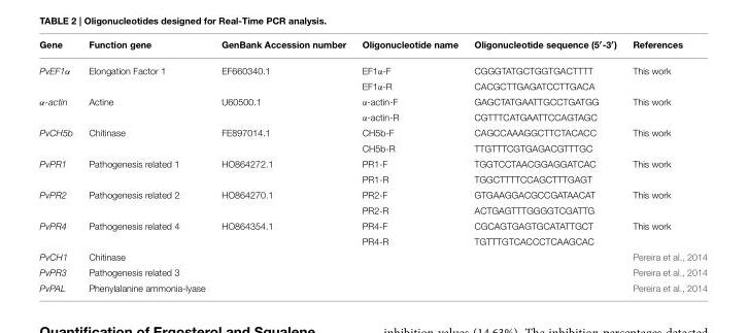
<table><thead><tr><td>Gene</td><td>Function gene</td><td>GenBank Accession number</td><td>Oligonucleotide name</td><td>Oligonucleotide sequence (5′-3′)</td><td>References</td></tr></thead><tbody><tr><td rowspan="2">PvEF1α</td><td>Elongation Factor 1</td><td>EF660340.1</td><td>EF1α-F</td><td>CGGGTATGCTGGTGACTTTT</td><td>This work</td></tr><tr><td></td><td></td><td>EF1α-R</td><td>CACGCTTGAGATCCTTGACA</td><td></td></tr><tr><td rowspan="2">α-actin</td><td>Actine</td><td>U60500.1</td><td>α-actin-F</td><td>GAGCTATGAATTGCCTGATGG</td><td>This work</td></tr><tr><td></td><td></td><td>α-actin-R</td><td>CGTTTCATGAATTCCAGTAGC</td><td></td></tr><tr><td rowspan="2">PvCH5b</td><td>Chitinase</td><td>FE897014.1</td><td>CH5b-F</td><td>CAGCCAAAGGCTTCTACACC</td><td>This work</td></tr><tr><td></td><td></td><td>CH5b-R</td><td>TTGTTTCGTGAGACGTTTGC</td><td></td></tr><tr><td rowspan="2">PvPR1</td><td>Pathogenesis related 1</td><td>HO864272.1</td><td>PR1-F</td><td>TGGTCCTAACGGAGGATCAC</td><td>This work</td></tr><tr><td></td><td></td><td>PR1-R</td><td>TGGCTTTTCCAGCTTTGAGT</td><td></td></tr><tr><td rowspan="2">PvPR2</td><td>Pathogenesis related 2</td><td>HO864270.1</td><td>PR2-F</td><td>GTGAAGGACGCCGATAACAT</td><td>This work</td></tr><tr><td></td><td></td><td>PR2-R</td><td>ACTGAGTTTGGGGTCGATTG</td><td></td></tr><tr><td rowspan="2">PvPR4</td><td>Pathogenesis related 4</td><td>HO864354.1</td><td>PR4-F</td><td>CGCAGTGAGTGCATATTGCT</td><td>This work</td></tr><tr><td></td><td></td><td>PR4-R</td><td>TGTTTGTCACCCTCAAGCAC</td><td></td></tr><tr><td>PvCH1</td><td>Chitinase</td><td></td><td></td><td></td><td>Pereira et al., 2014</td></tr><tr><td>PvPR3</td><td>Pathogenesis related 3</td><td></td><td></td><td></td><td>Pereira et al., 2014</td></tr><tr><td>PvPAL</td><td>Phenylalanine ammonia-lyase</td><td></td><td></td><td></td><td>Pereira et al., 2014</td></tr></tbody></table>